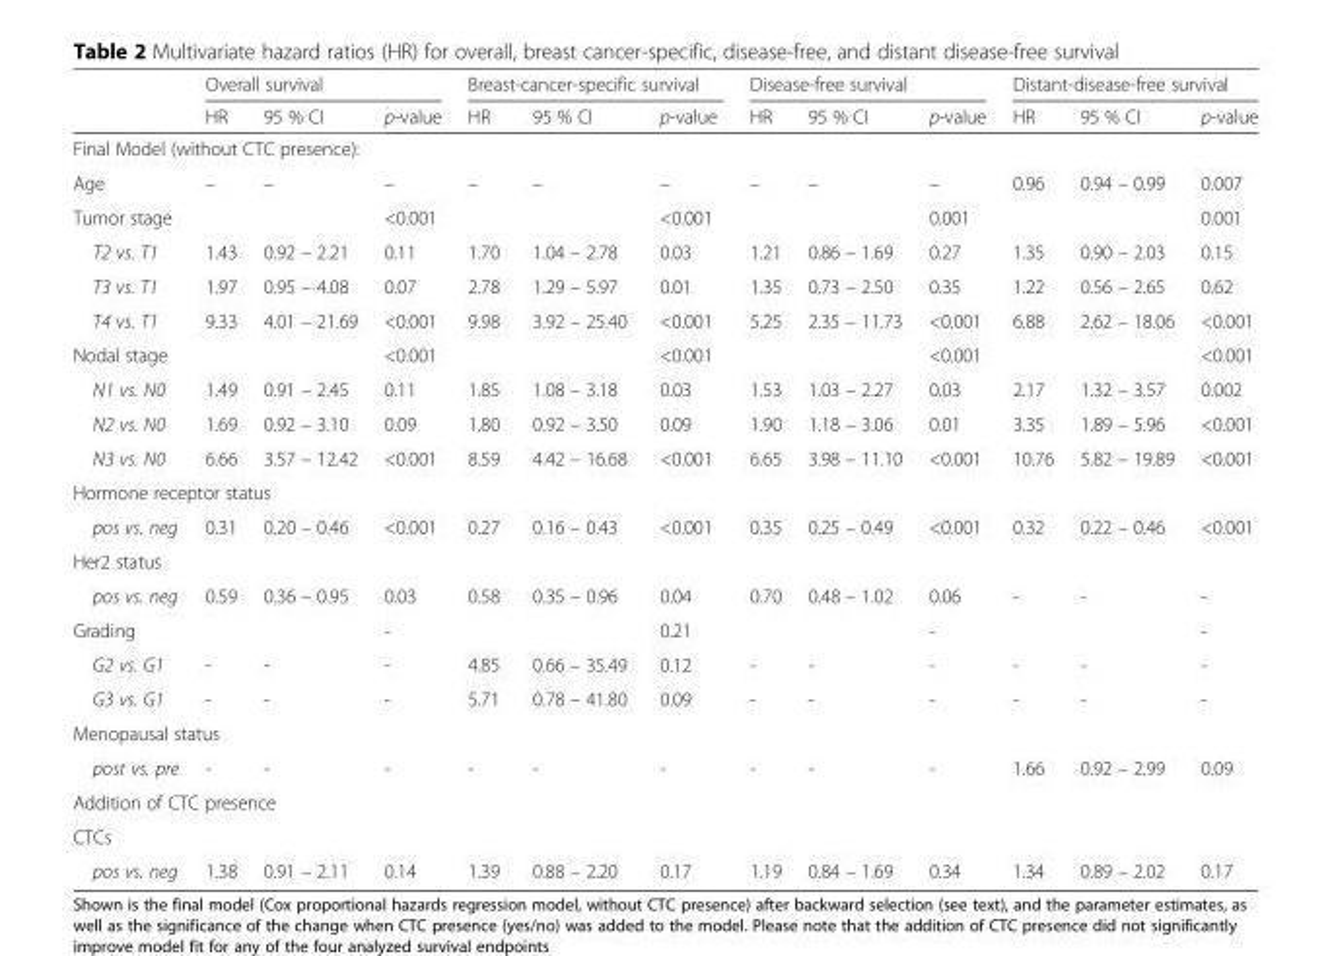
<table><thead><tr><td rowspan="2"></td><td colspan="3">Overall survival</td><td colspan="3">Breast-cancer-specific survival</td><td colspan="3">Disease-free survival</td><td colspan="3">Distant-disease-free survival</td></tr><tr><td>HR</td><td>95 % CI</td><td>p-value</td><td>HR</td><td>95 % CI</td><td>p-value</td><td>HR</td><td>95 % CI</td><td>p-value</td><td>HR</td><td>95 % CI</td><td>p-value</td></tr></thead><tbody><tr><td colspan="13">Final Model (without CTC presence):</td></tr><tr><td>Age</td><td>–</td><td>–</td><td>–</td><td>–</td><td>–</td><td>–</td><td>–</td><td>–</td><td>–</td><td>0.96</td><td>0.94 – 0.99</td><td>0.007</td></tr><tr><td>Tumor stage</td><td></td><td></td><td>&lt;0.001</td><td></td><td></td><td>&lt;0.001</td><td></td><td></td><td>0.001</td><td></td><td></td><td>0.001</td></tr><tr><td>T2 vs. T1</td><td>1.43</td><td>0.92 – 2.21</td><td>0.11</td><td>1.70</td><td>1.04 – 2.78</td><td>0.03</td><td>1.21</td><td>0.86 – 1.69</td><td>0.27</td><td>1.35</td><td>0.90 – 2.03</td><td>0.15</td></tr><tr><td>T3 vs. T1</td><td>1.97</td><td>0.95 – 4.08</td><td>0.07</td><td>2.78</td><td>1.29 – 5.97</td><td>0.01</td><td>1.35</td><td>0.73 – 2.50</td><td>0.35</td><td>1.22</td><td>0.56 – 2.65</td><td>0.62</td></tr><tr><td>T4 vs. T1</td><td>9.33</td><td>4.01 – 21.69</td><td>&lt;0.001</td><td>9.98</td><td>3.92 – 25.40</td><td>&lt;0.001</td><td>5.25</td><td>2.35 – 11.73</td><td>&lt;0.001</td><td>6.88</td><td>2.62 – 18.06</td><td>&lt;0.001</td></tr><tr><td>Nodal stage</td><td></td><td></td><td>&lt;0.001</td><td></td><td></td><td>&lt;0.001</td><td></td><td></td><td>&lt;0.001</td><td></td><td></td><td>&lt;0.001</td></tr><tr><td>N1 vs. N0</td><td>1.49</td><td>0.91 – 2.45</td><td>0.11</td><td>1.85</td><td>1.08 – 3.18</td><td>0.03</td><td>1.53</td><td>1.03 – 2.27</td><td>0.03</td><td>2.17</td><td>1.32 – 3.57</td><td>0.002</td></tr><tr><td>N2 vs. N0</td><td>1.69</td><td>0.92 – 3.10</td><td>0.09</td><td>1.80</td><td>0.92 – 3.50</td><td>0.09</td><td>1.90</td><td>1.18 – 3.06</td><td>0.01</td><td>3.35</td><td>1.89 – 5.96</td><td>&lt;0.001</td></tr><tr><td>N3 vs. N0</td><td>6.66</td><td>3.57 – 12.42</td><td>&lt;0.001</td><td>8.59</td><td>4.42 – 16.68</td><td>&lt;0.001</td><td>6.65</td><td>3.98 – 11.10</td><td>&lt;0.001</td><td>10.76</td><td>5.82 – 19.89</td><td>&lt;0.001</td></tr><tr><td colspan="13">Hormone receptor status</td></tr><tr><td>pos vs. neg</td><td>0.31</td><td>0.20 – 0.46</td><td>&lt;0.001</td><td>0.27</td><td>0.16 – 0.43</td><td>&lt;0.001</td><td>0.35</td><td>0.25 – 0.49</td><td>&lt;0.001</td><td>0.32</td><td>0.22 – 0.46</td><td>&lt;0.001</td></tr><tr><td colspan="13">Her2 status</td></tr><tr><td>pos vs. neg</td><td>0.59</td><td>0.36 – 0.95</td><td>0.03</td><td>0.58</td><td>0.35 – 0.96</td><td>0.04</td><td>0.70</td><td>0.48 – 1.02</td><td>0.06</td><td>-</td><td>-</td><td>-</td></tr><tr><td>Grading</td><td></td><td></td><td>-</td><td></td><td></td><td>0.21</td><td></td><td></td><td>-</td><td></td><td></td><td>-</td></tr><tr><td>G2 vs. G1</td><td>-</td><td>-</td><td>-</td><td>4.85</td><td>0.66 – 35.49</td><td>0.12</td><td>-</td><td>-</td><td>-</td><td>-</td><td>-</td><td>-</td></tr><tr><td>G3 vs. G1</td><td>-</td><td>-</td><td>-</td><td>5.71</td><td>0.78 – 41.80</td><td>0.09</td><td>-</td><td>-</td><td>-</td><td>-</td><td>-</td><td>-</td></tr><tr><td colspan="13">Menopausal status</td></tr><tr><td>post vs. pre</td><td>-</td><td>-</td><td>-</td><td>-</td><td>-</td><td>-</td><td>-</td><td>-</td><td>-</td><td>1.66</td><td>0.92 – 2.99</td><td>0.09</td></tr><tr><td colspan="13">Addition of CTC presence</td></tr><tr><td colspan="13">CTCs</td></tr><tr><td>pos vs. neg</td><td>1.38</td><td>0.91 – 2.11</td><td>0.14</td><td>1.39</td><td>0.88 – 2.20</td><td>0.17</td><td>1.19</td><td>0.84 – 1.69</td><td>0.34</td><td>1.34</td><td>0.89 – 2.02</td><td>0.17</td></tr></tbody></table>